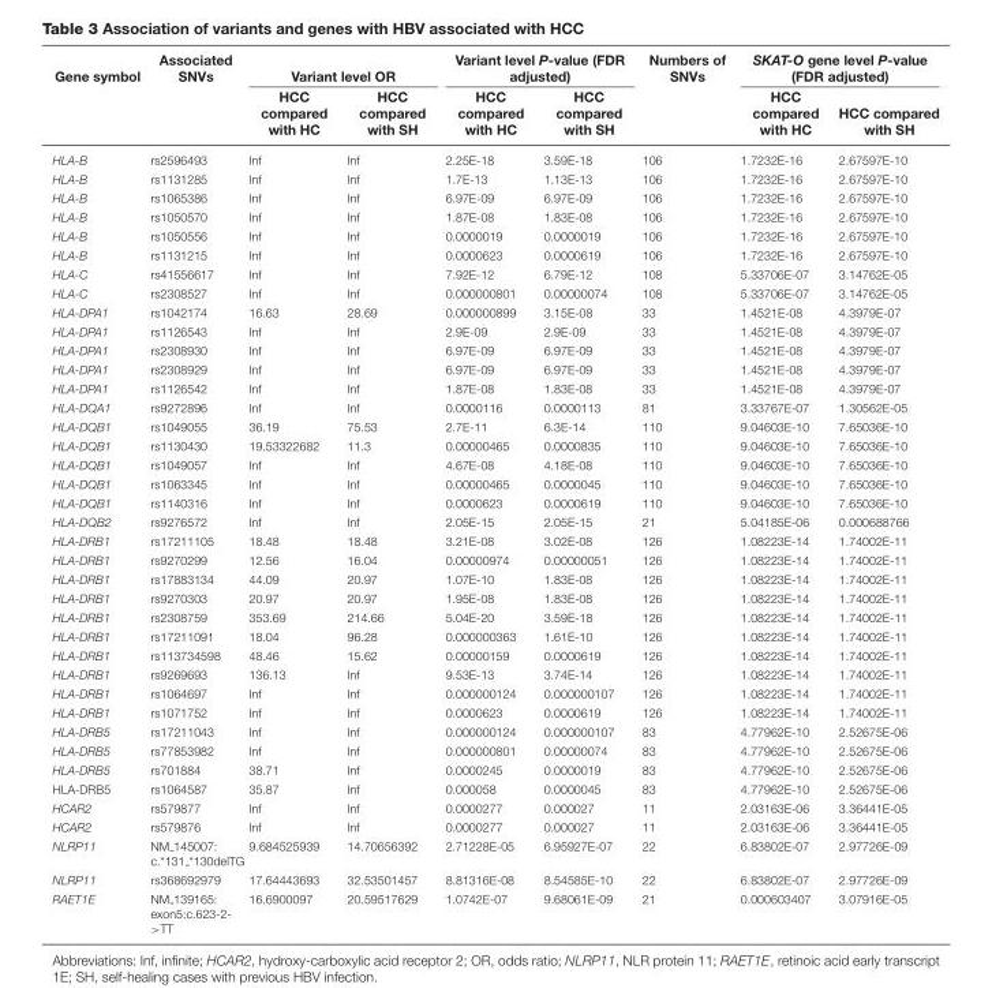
<table><thead><tr><td rowspan="2">Gene symbol</td><td rowspan="2">Associated SNVs</td><td colspan="2">Variant level OR</td><td colspan="2">Variant level P-value (FDR adjusted)</td><td rowspan="2">Numbers of SNVs</td><td colspan="2">SKAT-O gene level P-value (FDR adjusted)</td></tr><tr><td>HCC compared with HC</td><td>HCC compared with SH</td><td>HCC compared with HC</td><td>HCC compared with SH</td><td>HCC compared with HC</td><td>HCC compared with SH</td></tr></thead><tbody><tr><td>HLA-B</td><td>rs2596493</td><td>Inf</td><td>Inf</td><td>2.25E-18</td><td>3.59E-18</td><td>106</td><td>1.7232E-16</td><td>2.67597E-10</td></tr><tr><td>HLA-B</td><td>rs1131285</td><td>Inf</td><td>Inf</td><td>1.7E-13</td><td>1.13E-13</td><td>106</td><td>1.7232E-16</td><td>2.67597E-10</td></tr><tr><td>HLA-B</td><td>rs1065386</td><td>Inf</td><td>Inf</td><td>6.97E-09</td><td>6.97E-09</td><td>106</td><td>1.7232E-16</td><td>2.67597E-10</td></tr><tr><td>HLA-B</td><td>rs1050570</td><td>Inf</td><td>Inf</td><td>1.87E-08</td><td>1.83E-08</td><td>106</td><td>1.7232E-16</td><td>2.67597E-10</td></tr><tr><td>HLA-B</td><td>rs1050556</td><td>Inf</td><td>Inf</td><td>0.0000019</td><td>0.0000019</td><td>106</td><td>1.7232E-16</td><td>2.67597E-10</td></tr><tr><td>HLA-B</td><td>rs1131215</td><td>Inf</td><td>Inf</td><td>0.0000623</td><td>0.0000619</td><td>106</td><td>1.7232E-16</td><td>2.67597E-10</td></tr><tr><td>HLA-C</td><td>rs41556617</td><td>Inf</td><td>Inf</td><td>7.92E-12</td><td>6.79E-12</td><td>108</td><td>5.33706E-07</td><td>3.14762E-05</td></tr><tr><td>HLA-C</td><td>rs2308527</td><td>Inf</td><td>Inf</td><td>0.000000801</td><td>0.00000074</td><td>108</td><td>5.33706E-07</td><td>3.14762E-05</td></tr><tr><td>HLA-DPA1</td><td>rs1042174</td><td>16.63</td><td>28.69</td><td>0.000000899</td><td>3.15E-08</td><td>33</td><td>1.4521E-08</td><td>4.3979E-07</td></tr><tr><td>HLA-DPA1</td><td>rs1126543</td><td>Inf</td><td>Inf</td><td>2.9E-09</td><td>2.9E-09</td><td>33</td><td>1.4521E-08</td><td>4.3979E-07</td></tr><tr><td>HLA-DPA1</td><td>rs2308930</td><td>Inf</td><td>Inf</td><td>6.97E-09</td><td>6.97E-09</td><td>33</td><td>1.4521E-08</td><td>4.3979E-07</td></tr><tr><td>HLA-DPA1</td><td>rs2308929</td><td>Inf</td><td>Inf</td><td>6.97E-09</td><td>6.97E-09</td><td>33</td><td>1.4521E-08</td><td>4.3979E-07</td></tr><tr><td>HLA-DPA1</td><td>rs1126542</td><td>Inf</td><td>Inf</td><td>1.87E-08</td><td>1.83E-08</td><td>33</td><td>1.4521E-08</td><td>4.3979E-07</td></tr><tr><td>HLA-DQA1</td><td>rs9272896</td><td>Inf</td><td>Inf</td><td>0.0000116</td><td>0.0000113</td><td>81</td><td>3.33767E-07</td><td>1.30562E-05</td></tr><tr><td>HLA-DQB1</td><td>rs1049055</td><td>36.19</td><td>75.53</td><td>2.7E-11</td><td>6.3E-14</td><td>110</td><td>9.04603E-10</td><td>7.65036E-10</td></tr><tr><td>HLA-DQB1</td><td>rs1130430</td><td>19.53322682</td><td>11.3</td><td>0.00000465</td><td>0.0000835</td><td>110</td><td>9.04603E-10</td><td>7.65036E-10</td></tr><tr><td>HLA-DQB1</td><td>rs1049057</td><td>Inf</td><td>Inf</td><td>4.67E-08</td><td>4.18E-08</td><td>110</td><td>9.04603E-10</td><td>7.65036E-10</td></tr><tr><td>HLA-DQB1</td><td>rs1063345</td><td>Inf</td><td>Inf</td><td>0.00000465</td><td>0.0000045</td><td>110</td><td>9.04603E-10</td><td>7.65036E-10</td></tr><tr><td>HLA-DQB1</td><td>rs1140316</td><td>Inf</td><td>Inf</td><td>0.0000623</td><td>0.0000619</td><td>110</td><td>9.04603E-10</td><td>7.65036E-10</td></tr><tr><td>HLA-DQB2</td><td>rs9276572</td><td>Inf</td><td>Inf</td><td>2.05E-15</td><td>2.05E-15</td><td>21</td><td>5.04185E-06</td><td>0.000688766</td></tr><tr><td>HLA-DRB1</td><td>rs17211105</td><td>18.48</td><td>18.48</td><td>3.21E-08</td><td>3.02E-08</td><td>126</td><td>1.08223E-14</td><td>1.74002E-11</td></tr><tr><td>HLA-DRB1</td><td>rs9270299</td><td>12.56</td><td>16.04</td><td>0.00000974</td><td>0.00000051</td><td>126</td><td>1.08223E-14</td><td>1.74002E-11</td></tr><tr><td>HLA-DRB1</td><td>rs17883134</td><td>44.09</td><td>20.97</td><td>1.07E-10</td><td>1.83E-08</td><td>126</td><td>1.08223E-14</td><td>1.74002E-11</td></tr><tr><td>HLA-DRB1</td><td>rs9270303</td><td>20.97</td><td>20.97</td><td>1.95E-08</td><td>1.83E-08</td><td>126</td><td>1.08223E-14</td><td>1.74002E-11</td></tr><tr><td>HLA-DRB1</td><td>rs2308759</td><td>353.69</td><td>214.66</td><td>5.04E-20</td><td>3.59E-18</td><td>126</td><td>1.08223E-14</td><td>1.74002E-11</td></tr><tr><td>HLA-DRB1</td><td>rs17211091</td><td>18.04</td><td>96.28</td><td>0.000000363</td><td>1.61E-10</td><td>126</td><td>1.08223E-14</td><td>1.74002E-11</td></tr><tr><td>HLA-DRB1</td><td>rs113734598</td><td>48.46</td><td>15.62</td><td>0.00000159</td><td>0.0000619</td><td>126</td><td>1.08223E-14</td><td>1.74002E-11</td></tr><tr><td>HLA-DRB1</td><td>rs9269693</td><td>136.13</td><td>Inf</td><td>9.53E-13</td><td>3.74E-14</td><td>126</td><td>1.08223E-14</td><td>1.74002E-11</td></tr><tr><td>HLA-DRB1</td><td>rs1064697</td><td>Inf</td><td>Inf</td><td>0.000000124</td><td>0.000000107</td><td>126</td><td>1.08223E-14</td><td>1.74002E-11</td></tr><tr><td>HLA-DRB1</td><td>rs1071752</td><td>Inf</td><td>Inf</td><td>0.0000623</td><td>0.0000619</td><td>126</td><td>1.08223E-14</td><td>1.74002E-11</td></tr><tr><td>HLA-DRB5</td><td>rs17211043</td><td>Inf</td><td>Inf</td><td>0.000000124</td><td>0.000000107</td><td>83</td><td>4.77962E-10</td><td>2.52675E-06</td></tr><tr><td>HLA-DRB5</td><td>rs77853982</td><td>Inf</td><td>Inf</td><td>0.000000801</td><td>0.00000074</td><td>83</td><td>4.77962E-10</td><td>2.52675E-06</td></tr><tr><td>HLA-DRB5</td><td>rs701884</td><td>38.71</td><td>Inf</td><td>0.0000245</td><td>0.0000019</td><td>83</td><td>4.77962E-10</td><td>2.52675E-06</td></tr><tr><td>HLA-DRB5</td><td>rs1064587</td><td>35.87</td><td>Inf</td><td>0.000058</td><td>0.0000045</td><td>83</td><td>4.77962E-10</td><td>2.52675E-06</td></tr><tr><td>HCAR2</td><td>rs579877</td><td>Inf</td><td>Inf</td><td>0.0000277</td><td>0.000027</td><td>11</td><td>2.03163E-06</td><td>3.36441E-05</td></tr><tr><td>HCAR2</td><td>rs579876</td><td>Inf</td><td>Inf</td><td>0.0000277</td><td>0.000027</td><td>11</td><td>2.03163E-06</td><td>3.36441E-05</td></tr><tr><td>NLRP11</td><td>NM <sub>145007: c.*131</sub> *130delTG</td><td>9.684525939</td><td>14.70656392</td><td>2.71228E-05</td><td>6.95927E-07</td><td>22</td><td>6.83802E-07</td><td>2.97726E-09</td></tr><tr><td>NLRP11</td><td>rs368692979</td><td>17.64443693</td><td>32.53501457</td><td>8.81316E-08</td><td>8.54585E-10</td><td>22</td><td>6.83802E-07</td><td>2.97726E-09</td></tr><tr><td>RAET1E</td><td>NM 139165: exon5:c.623-2- &gt;TT</td><td>16.6900097</td><td>20.59517629</td><td>1.0742E-07</td><td>9.68061E-09</td><td>21</td><td>0.000603407</td><td>3.07916E-05</td></tr></tbody></table>